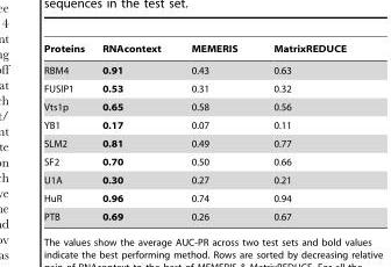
<table><thead><tr><td>Proteins</td><td>RNAcontext</td><td>MEMERIS</td><td>MatrixREDUCE</td></tr></thead><tbody><tr><td>RBM4</td><td>0.91</td><td>0.43</td><td>0.63</td></tr><tr><td>FUSIP1</td><td>0.53</td><td>0.31</td><td>0.32</td></tr><tr><td>Vts1p</td><td>0.65</td><td>0.58</td><td>0.56</td></tr><tr><td>YB1</td><td>0.17</td><td>0.07</td><td>0.11</td></tr><tr><td>SLM2</td><td>0.81</td><td>0.49</td><td>0.77</td></tr><tr><td>SF2</td><td>0.70</td><td>0.50</td><td>0.66</td></tr><tr><td>U1A</td><td>0.30</td><td>0.27</td><td>0.21</td></tr><tr><td>HuR</td><td>0.96</td><td>0.74</td><td>0.94</td></tr><tr><td>PTB</td><td>0.69</td><td>0.26</td><td>0.67</td></tr></tbody></table>